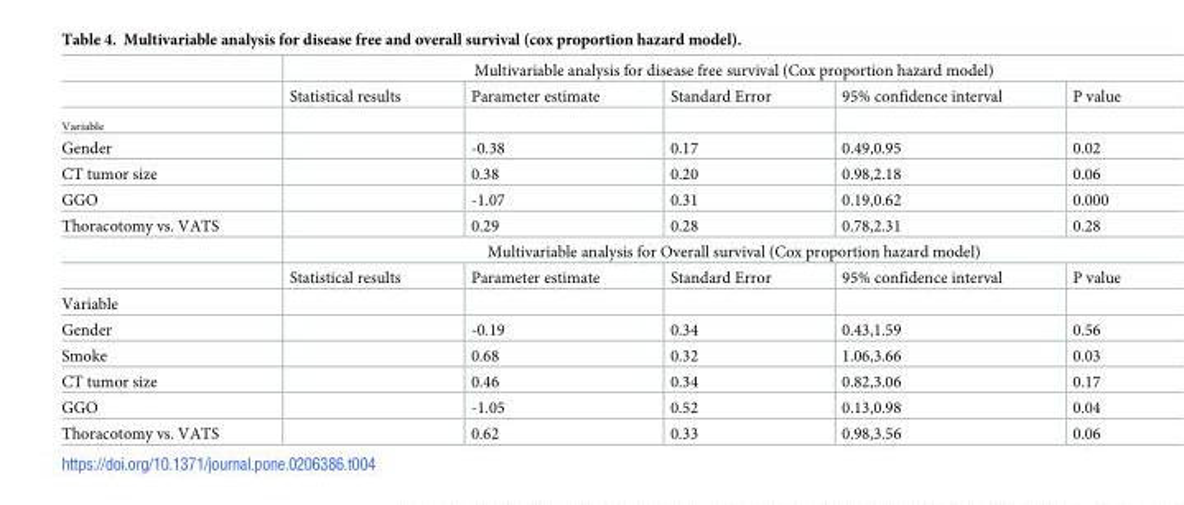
<table><thead><tr><td rowspan="2"></td><td colspan="5">Multivariable analysis for disease free survival (Cox proportion hazard model)</td></tr><tr><td>Statistical results</td><td>Parameter estimate</td><td>Standard Error</td><td>95% confidence interval</td><td>P value</td></tr></thead><tbody><tr><td colspan="6"><sub>Variable</sub></td></tr><tr><td>Gender</td><td></td><td>-0.38</td><td>0.17</td><td>0.49,0.95</td><td>0.02</td></tr><tr><td>CT tumor size</td><td></td><td>0.38</td><td>0.20</td><td>0.98,2.18</td><td>0.06</td></tr><tr><td>GGO</td><td></td><td>-1.07</td><td>0.31</td><td>0.19,0.62</td><td>0.000</td></tr><tr><td rowspan="3">Thoracotomy vs. VATS</td><td></td><td>0.29</td><td>0.28</td><td>0.78,2.31</td><td>0.28</td></tr><tr><td colspan="5">Multivariable analysis for Overall survival (Cox proportion hazard model)</td></tr><tr><td>Statistical results</td><td>Parameter estimate</td><td>Standard Error</td><td>95% confidence interval</td><td>P value</td></tr><tr><td colspan="6">Variable</td></tr><tr><td>Gender</td><td></td><td>-0.19</td><td>0.34</td><td>0.43,1.59</td><td>0.56</td></tr><tr><td>Smoke</td><td></td><td>0.68</td><td>0.32</td><td>1.06,3.66</td><td>0.03</td></tr><tr><td>CT tumor size</td><td></td><td>0.46</td><td>0.34</td><td>0.82,3.06</td><td>0.17</td></tr><tr><td>GGO</td><td></td><td>-1.05</td><td>0.52</td><td>0.13,0.98</td><td>0.04</td></tr><tr><td>Thoracotomy vs. VATS</td><td></td><td>0.62</td><td>0.33</td><td>0.98,3.56</td><td>0.06</td></tr></tbody></table>